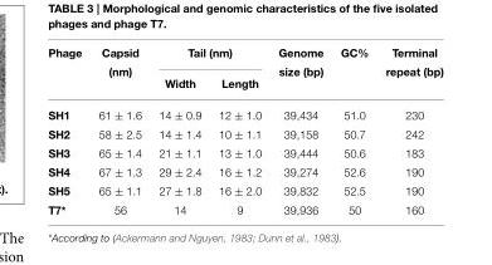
<table><thead><tr><td rowspan="2">Phage</td><td rowspan="2">Capsid (nm)</td><td colspan="2">Tail (nm)</td><td rowspan="2">Genome size (bp)</td><td rowspan="2">GC%</td><td rowspan="2">Terminal repeat (bp)</td></tr><tr><td>Width</td><td>Length</td></tr></thead><tbody><tr><td>SH1</td><td>61 ± 1.6</td><td>14 ± 0.9</td><td>12 ± 1.0</td><td>39,434</td><td>51.0</td><td>230</td></tr><tr><td>SH2</td><td>58 ± 2.5</td><td>14 ± 1.4</td><td>10 ± 1.1</td><td>39,158</td><td>50.7</td><td>242</td></tr><tr><td>SH3</td><td>65 ± 1.4</td><td>21 ± 1.1</td><td>13 ± 1.0</td><td>39,444</td><td>50.6</td><td>183</td></tr><tr><td>SH4</td><td>67 ± 1.3</td><td>29 ± 2.4</td><td>16 ± 1.2</td><td>39,274</td><td>52.6</td><td>190</td></tr><tr><td>SH5</td><td>65 ± 1.1</td><td>27 ± 1.8</td><td>16 ± 2.0</td><td>39,832</td><td>52.5</td><td>190</td></tr><tr><td>T7*</td><td>56</td><td>14</td><td>9</td><td>39,936</td><td>50</td><td>160</td></tr></tbody></table>